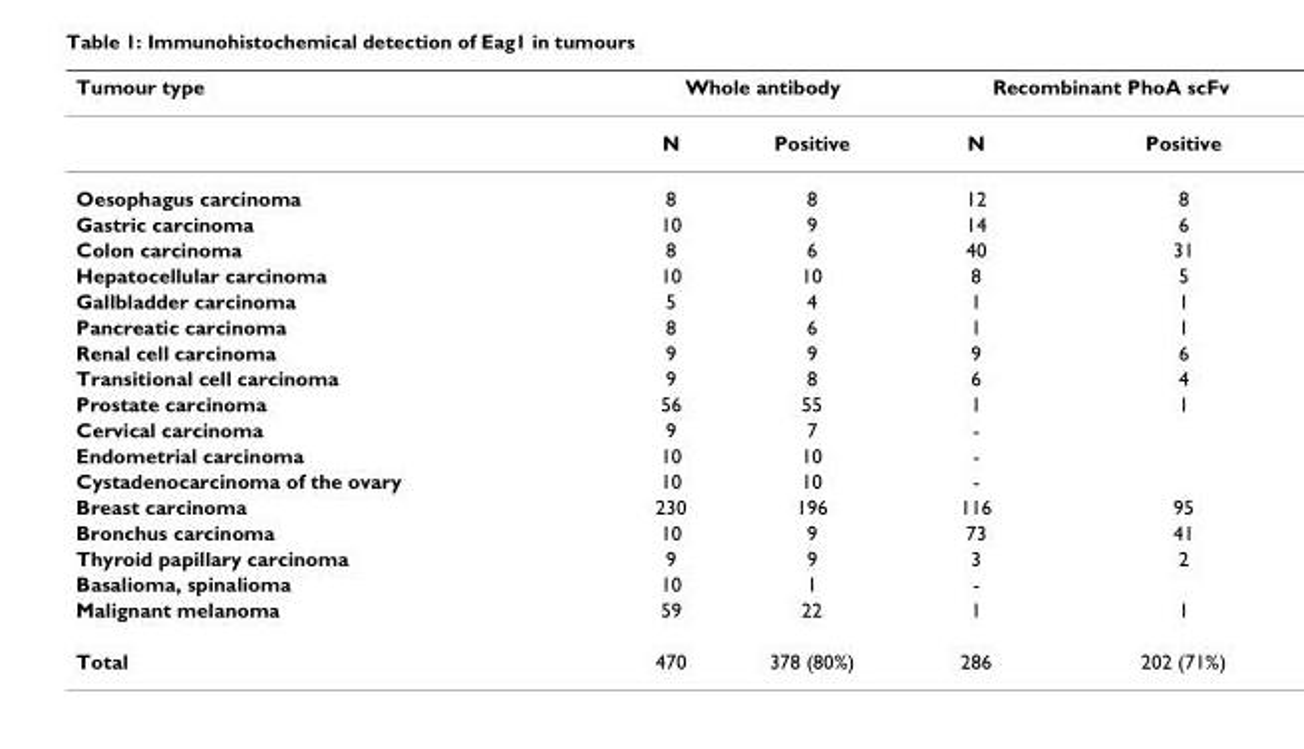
<table><thead><tr><td rowspan="2">Tumour type</td><td colspan="2">Whole antibody</td><td colspan="2">Recombinant PhoA scFv</td></tr><tr><td>N</td><td>Positive</td><td>N</td><td>Positive</td></tr></thead><tbody><tr><td>Oesophagus carcinoma</td><td>8</td><td>8</td><td>12</td><td>8</td></tr><tr><td>Gastric carcinoma</td><td>10</td><td>9</td><td>14</td><td>6</td></tr><tr><td>Colon carcinoma</td><td>8</td><td>6</td><td>40</td><td>31</td></tr><tr><td>Hepatocellular carcinoma</td><td>10</td><td>10</td><td>8</td><td>5</td></tr><tr><td>Gallbladder carcinoma</td><td>5</td><td>4</td><td>1</td><td>1</td></tr><tr><td>Pancreatic carcinoma</td><td>8</td><td>6</td><td>1</td><td>1</td></tr><tr><td>Renal cell carcinoma</td><td>9</td><td>9</td><td>9</td><td>6</td></tr><tr><td>Transitional cell carcinoma</td><td>9</td><td>8</td><td>6</td><td>4</td></tr><tr><td>Prostate carcinoma</td><td>56</td><td>55</td><td>1</td><td>1</td></tr><tr><td>Cervical carcinoma</td><td>9</td><td>7</td><td>-</td><td></td></tr><tr><td>Endometrial carcinoma</td><td>10</td><td>10</td><td>-</td><td></td></tr><tr><td>Cystadenocarcinoma of the ovary</td><td>10</td><td>10</td><td>-</td><td></td></tr><tr><td>Breast carcinoma</td><td>230</td><td>196</td><td>116</td><td>95</td></tr><tr><td>Bronchus carcinoma</td><td>10</td><td>9</td><td>73</td><td>41</td></tr><tr><td>Thyroid papillary carcinoma</td><td>9</td><td>9</td><td>3</td><td>2</td></tr><tr><td>Basalioma, spinalioma</td><td>10</td><td>1</td><td>-</td><td></td></tr><tr><td>Malignant melanoma</td><td>59</td><td>22</td><td>1</td><td>1</td></tr><tr><td>Total</td><td>470</td><td>378 (80%)</td><td>286</td><td>202 (71%)</td></tr></tbody></table>